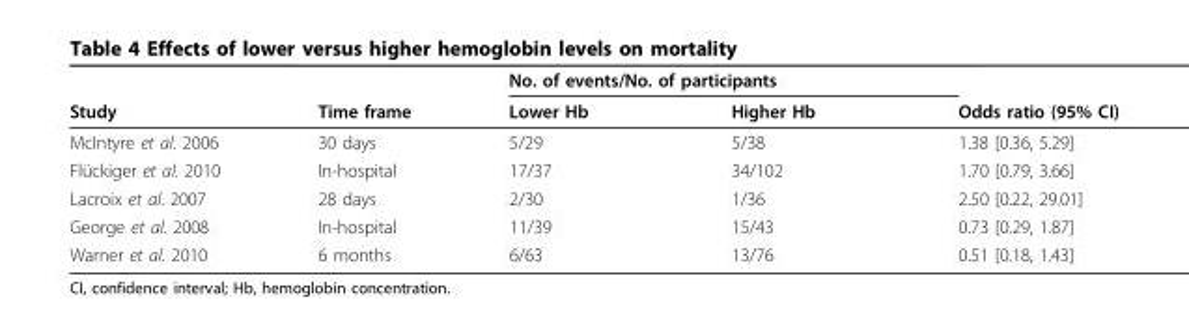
<table><thead><tr><td rowspan="2">Study</td><td rowspan="2">Time frame</td><td colspan="2">No. of events/No. of participants</td><td rowspan="2">Odds ratio (95% CI)</td></tr><tr><td>Lower Hb</td><td>Higher Hb</td></tr></thead><tbody><tr><td>McIntyre et al. 2006</td><td>30 days</td><td>5/29</td><td>5/38</td><td>1.38 [0.36, 5.29]</td></tr><tr><td>Flückiger et al. 2010</td><td>In-hospital</td><td>17/37</td><td>34/102</td><td>1.70 [0.79, 3.66]</td></tr><tr><td>Lacroix et al. 2007</td><td>28 days</td><td>2/30</td><td>1/36</td><td>2.50 [0.22, 29.01]</td></tr><tr><td>George et al. 2008</td><td>In-hospital</td><td>11/39</td><td>15/43</td><td>0.73 [0.29, 1.87]</td></tr><tr><td>Warner et al. 2010</td><td>6 months</td><td>6/63</td><td>13/76</td><td>0.51 [0.18, 1.43]</td></tr></tbody></table>